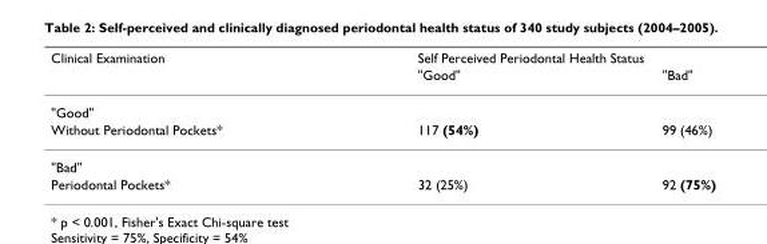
<table><thead><tr><td rowspan="2">Clinical Examination</td><td colspan="2">Self Perceived Periodontal Health Status</td></tr><tr><td>&quot;Good&quot;</td><td>&quot;Bad&quot;</td></tr></thead><tbody><tr><td colspan="3">&quot;Good&quot;</td></tr><tr><td>Without Periodontal Pockets*</td><td>117 (54%)</td><td>99 (46%)</td></tr><tr><td colspan="3">&quot;Bad&quot;</td></tr><tr><td>Periodontal Pockets*</td><td>32 (25%)</td><td>92 (75%)</td></tr></tbody></table>